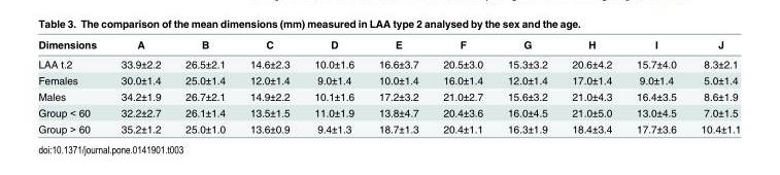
<table><thead><tr><td>Dimensions</td><td>A</td><td>B</td><td>C</td><td>D</td><td>E</td><td>F</td><td>G</td><td>H</td><td>I</td><td>J</td></tr></thead><tbody><tr><td>LAA t.2</td><td>33.9±2.2</td><td>26.5±2.1</td><td>14.6±2.3</td><td>10.0±1.6</td><td>16.6±3.7</td><td>20.5±3.0</td><td>15.3±3.2</td><td>20.6±4.2</td><td>15.7±4.0</td><td>8.3±2.1</td></tr><tr><td>Females</td><td>30.0±1.4</td><td>25.0±1.4</td><td>12.0±1.4</td><td>9.0±1.4</td><td>10.0±1.4</td><td>16.0±1.4</td><td>12.0±1.4</td><td>17.0±1.4</td><td>9.0±1.4</td><td>5.0±1.4</td></tr><tr><td>Males</td><td>34.2±1.9</td><td>26.7±2.1</td><td>14.9±2.2</td><td>10.1±1.6</td><td>17.2±3.2</td><td>21.0±2.7</td><td>15.6±3.2</td><td>21.0±4.3</td><td>16.4±3.5</td><td>8.6±1.9</td></tr><tr><td>Group &lt; 60</td><td>32.2±2.7</td><td>26.1±1.4</td><td>13.5±1.5</td><td>11.0±1.9</td><td>13.8±4.7</td><td>20.4±3.6</td><td>16.0±4.5</td><td>21.0±5.0</td><td>13.0±4.5</td><td>7.0±1.5</td></tr><tr><td>Group &gt; 60</td><td>35.2±1.2</td><td>25.0±1.0</td><td>13.6±0.9</td><td>9.4±1.3</td><td>18.7±1.3</td><td>20.4±1.1</td><td>16.3±1.9</td><td>18.4±3.4</td><td>17.7±3.6</td><td>10.4±1.1</td></tr></tbody></table>